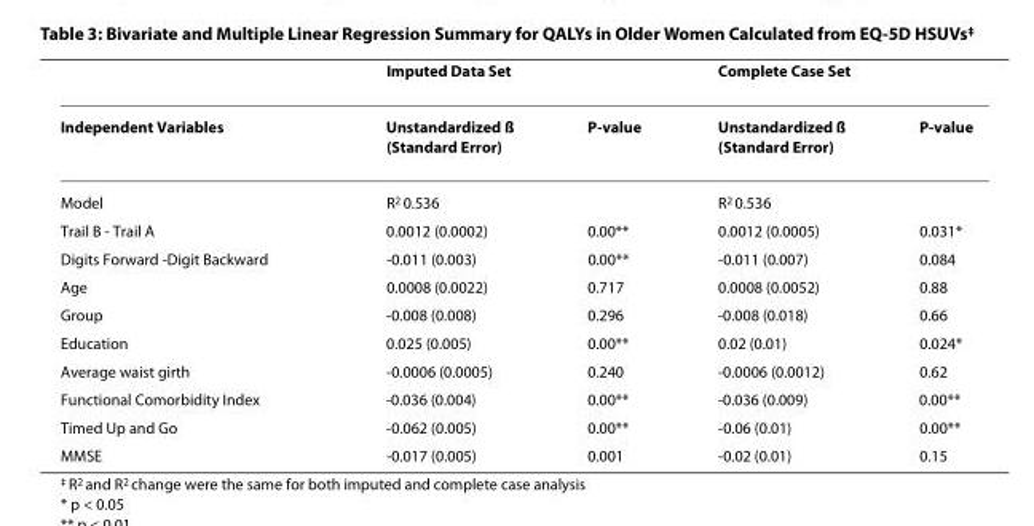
<table><thead><tr><td rowspan="2">Independent Variables</td><td colspan="2">Imputed Data Set</td><td colspan="2">Complete Case Set</td></tr><tr><td>Unstandardized ß (Standard Error)</td><td>P-value</td><td>Unstandardized ß (Standard Error)</td><td>P-value</td></tr></thead><tbody><tr><td>Model</td><td>R<sup>2</sup> 0.536</td><td></td><td>R<sup>2</sup> 0.536</td><td></td></tr><tr><td>Trail B - Trail A</td><td>0.0012 (0.0002)</td><td>0.00**</td><td>0.0012 (0.0005)</td><td>0.031*</td></tr><tr><td>Digits Forward -Digit Backward</td><td>-0.011 (0.003)</td><td>0.00**</td><td>-0.011 (0.007)</td><td>0.084</td></tr><tr><td>Age</td><td>0.0008 (0.0022)</td><td>0.717</td><td>0.0008 (0.0052)</td><td>0.88</td></tr><tr><td>Group</td><td>-0.008 (0.008)</td><td>0.296</td><td>-0.008 (0.018)</td><td>0.66</td></tr><tr><td>Education</td><td>0.025 (0.005)</td><td>0.00**</td><td>0.02 (0.01)</td><td>0.024*</td></tr><tr><td>Average waist girth</td><td>-0.0006 (0.0005)</td><td>0.240</td><td>-0.0006 (0.0012)</td><td>0.62</td></tr><tr><td>Functional Comorbidity Index</td><td>-0.036 (0.004)</td><td>0.00**</td><td>-0.036 (0.009)</td><td>0.00**</td></tr><tr><td>Timed Up and Go</td><td>-0.062 (0.005)</td><td>0.00**</td><td>-0.06 (0.01)</td><td>0.00**</td></tr><tr><td>MMSE</td><td>-0.017 (0.005)</td><td>0.001</td><td>-0.02 (0.01)</td><td>0.15</td></tr></tbody></table>